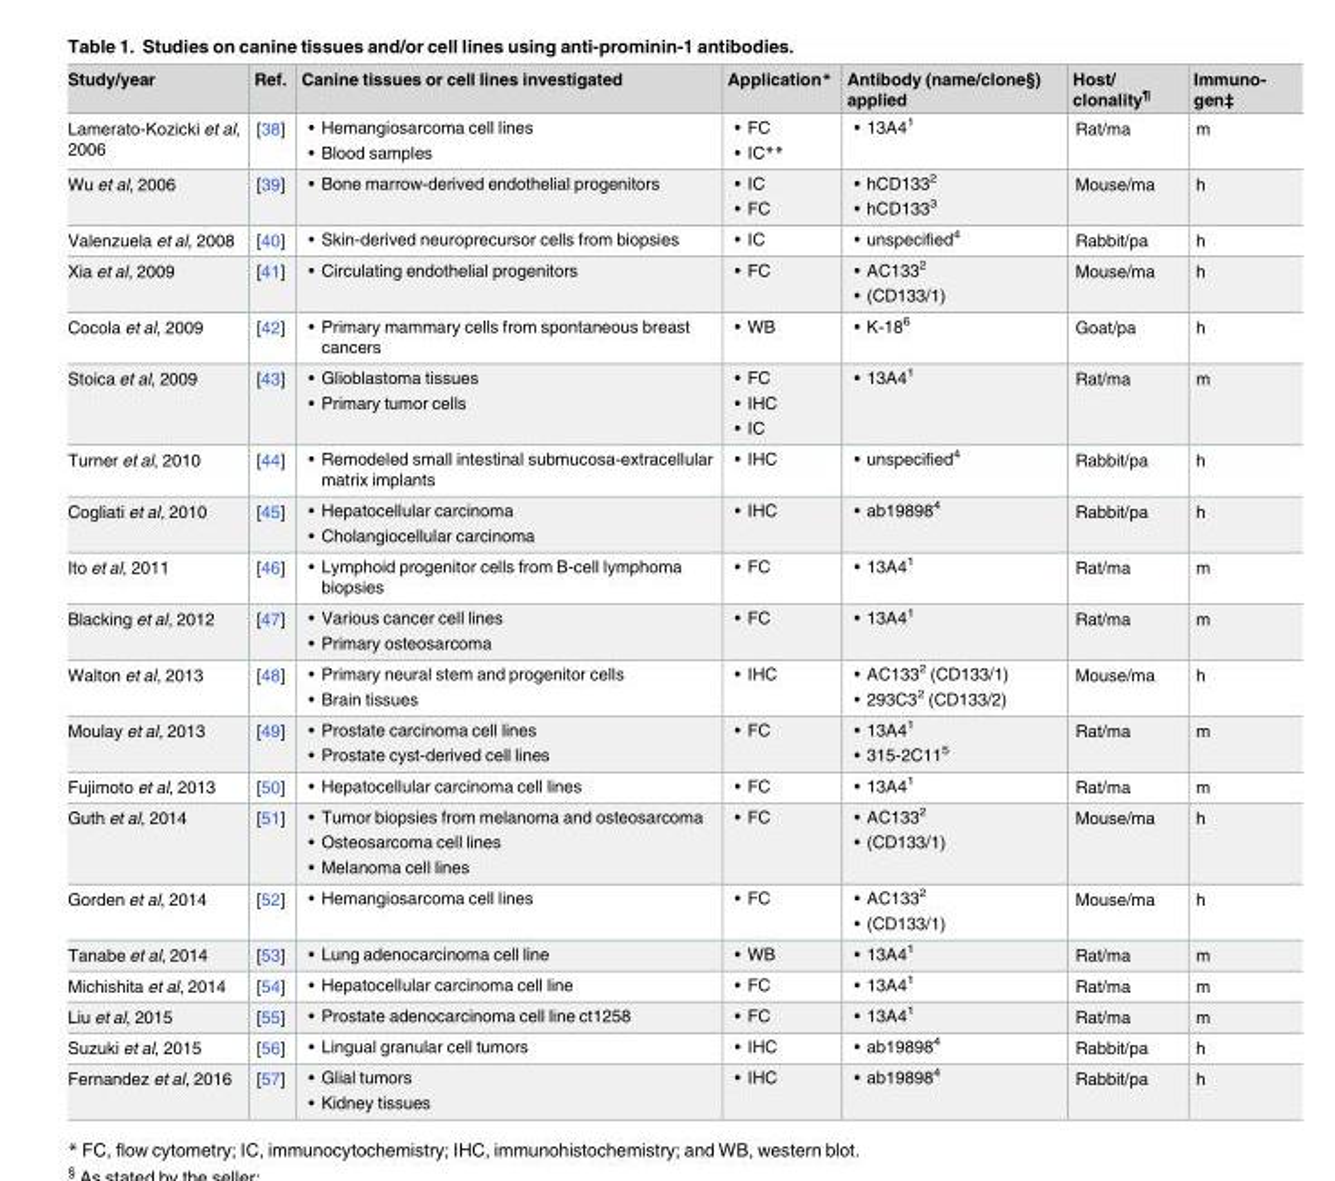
<table><thead><tr><td>Study/year</td><td>Ref.</td><td>Canine tissues or cell lines investigated</td><td>Application*</td><td>Antibody (name/clone§) applied</td><td>Host/ clonality<sup>¶</sup></td><td>Immuno- gen‡</td></tr></thead><tbody><tr><td>Lamerato-Kozicki et al, 2006</td><td>[38]</td><td>• Hemangiosarcoma cell lines • Blood samples</td><td>• FC • IC**</td><td>• 13A41</td><td>Rat/ma</td><td>m</td></tr><tr><td>Wu et al, 2006</td><td>[39]</td><td>• Bone marrow-derived endothelial progenitors</td><td>• IC • FC</td><td>• hCD1332 • hCD1333</td><td>Mouse/ma</td><td>h</td></tr><tr><td>Valenzuela et al, 2008</td><td>[40]</td><td>• Skin-derived neuroprecursor cells from biopsies</td><td>• IC</td><td>• unspecified4</td><td>Rabbit/pa</td><td>h</td></tr><tr><td>Xia et al, 2009</td><td>[41]</td><td>• Circulating endothelial progenitors</td><td>• FC</td><td>• AC1332 • (CD133/1)</td><td>Mouse/ma</td><td>h</td></tr><tr><td>Cocola et al, 2009</td><td>[42]</td><td>• Primary mammary cells from spontaneous breast cancers</td><td>• WB</td><td>• K-186</td><td>Goat/pa</td><td>h</td></tr><tr><td>Stoica et al, 2009</td><td>[43]</td><td>• Glioblastoma tissues • Primary tumor cells</td><td>• FC • IHC • IC</td><td>• 13A41</td><td>Rat/ma</td><td>m</td></tr><tr><td>Turner et al, 2010</td><td>[44]</td><td>• Remodeled small intestinal submucosa-extracellular matrix implants</td><td>• IHC</td><td>• unspecified4</td><td>Rabbit/pa</td><td>h</td></tr><tr><td>Cogliati et al, 2010</td><td>[45]</td><td>• Hepatocellular carcinoma • Cholangiocellular carcinoma</td><td>• IHC</td><td>• ab198984</td><td>Rabbit/pa</td><td>h</td></tr><tr><td>Ito et al, 2011</td><td>[46]</td><td>• Lymphoid progenitor cells from B-cell lymphoma biopsies</td><td>• FC</td><td>• 13A41</td><td>Rat/ma</td><td>m</td></tr><tr><td>Blacking et al, 2012</td><td>[47]</td><td>• Various cancer cell lines • Primary osteosarcoma</td><td>• FC</td><td>• 13A41</td><td>Rat/ma</td><td>m</td></tr><tr><td>Walton et al, 2013</td><td>[48]</td><td>• Primary neural stem and progenitor cells • Brain tissues</td><td>• IHC</td><td>• AC1332 (CD133/1) • 293C32 (CD133/2)</td><td>Mouse/ma</td><td>h</td></tr><tr><td>Moulay et al, 2013</td><td>[49]</td><td>• Prostate carcinoma cell lines • Prostate cyst-derived cell lines</td><td>• FC</td><td>• 13A41 • 315-2C115</td><td>Rat/ma</td><td>m</td></tr><tr><td>Fujimoto et al, 2013</td><td>[50]</td><td>• Hepatocellular carcinoma cell lines</td><td>• FC</td><td>• 13A41</td><td>Rat/ma</td><td>m</td></tr><tr><td>Guth et al, 2014</td><td>[51]</td><td>• Tumor biopsies from melanoma and osteosarcoma • Osteosarcoma cell lines • Melanoma cell lines</td><td>• FC</td><td>• AC1332 • (CD133/1)</td><td>Mouse/ma</td><td>h</td></tr><tr><td>Gorden et al, 2014</td><td>[52]</td><td>• Hemangiosarcoma cell lines</td><td>• FC</td><td>• AC1332 • (CD133/1)</td><td>Mouse/ma</td><td>h</td></tr><tr><td>Tanabe et al, 2014</td><td>[53]</td><td>• Lung adenocarcinoma cell line</td><td>• WB</td><td>• 13A41</td><td>Rat/ma</td><td>m</td></tr><tr><td>Michishita et al, 2014</td><td>[54]</td><td>• Hepatocellular carcinoma cell line</td><td>• FC</td><td>• 13A41</td><td>Rat/ma</td><td>m</td></tr><tr><td>Liu et al, 2015</td><td>[55]</td><td>• Prostate adenocarcinoma cell line ct1258</td><td>• FC</td><td>• 13A41</td><td>Rat/ma</td><td>m</td></tr><tr><td>Suzuki et al, 2015</td><td>[56]</td><td>• Lingual granular cell tumors</td><td>• IHC</td><td>• ab198984</td><td>Rabbit/pa</td><td>h</td></tr><tr><td>Fernandez et al, 2016</td><td>[57]</td><td>• Glial tumors • Kidney tissues</td><td>• IHC</td><td>• ab198984</td><td>Rabbit/pa</td><td>h</td></tr></tbody></table>